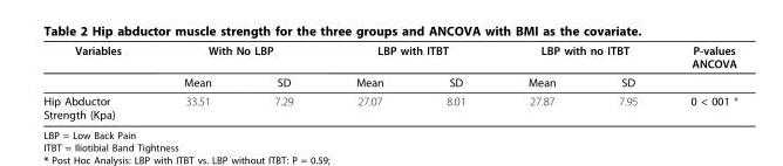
<table><thead><tr><td rowspan="2">Variables</td><td colspan="2">With No LBP</td><td colspan="2">LBP with ITBT</td><td colspan="2">LBP with no ITBT</td><td rowspan="2">P-values ANCOVA</td></tr><tr><td>Mean</td><td>SD</td><td>Mean</td><td>SD</td><td>Mean</td><td>SD</td></tr></thead><tbody><tr><td>Hip Abductor Strength (Kpa)</td><td>33.51</td><td>7.29</td><td>27.07</td><td>8.01</td><td>27.87</td><td>7.95</td><td>0 &lt; 001 *</td></tr></tbody></table>